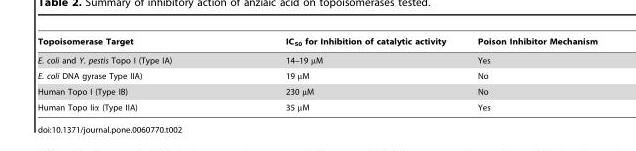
<table><thead><tr><td>Topoisomerase Target</td><td>IC<sub>50</sub> for Inhibition of catalytic activity</td><td>Poison Inhibitor Mechanism</td></tr></thead><tbody><tr><td>E. coli and Y. pestis Topo I (Type IA)</td><td>14–19 µM</td><td>Yes</td></tr><tr><td>E. coli DNA gyrase Type IIA)</td><td>19 µM</td><td>No</td></tr><tr><td>Human Topo I (Type IB)</td><td>230 µM</td><td>No</td></tr><tr><td>Human Topo Iiα (Type IIA)</td><td>35 µM</td><td>Yes</td></tr></tbody></table>